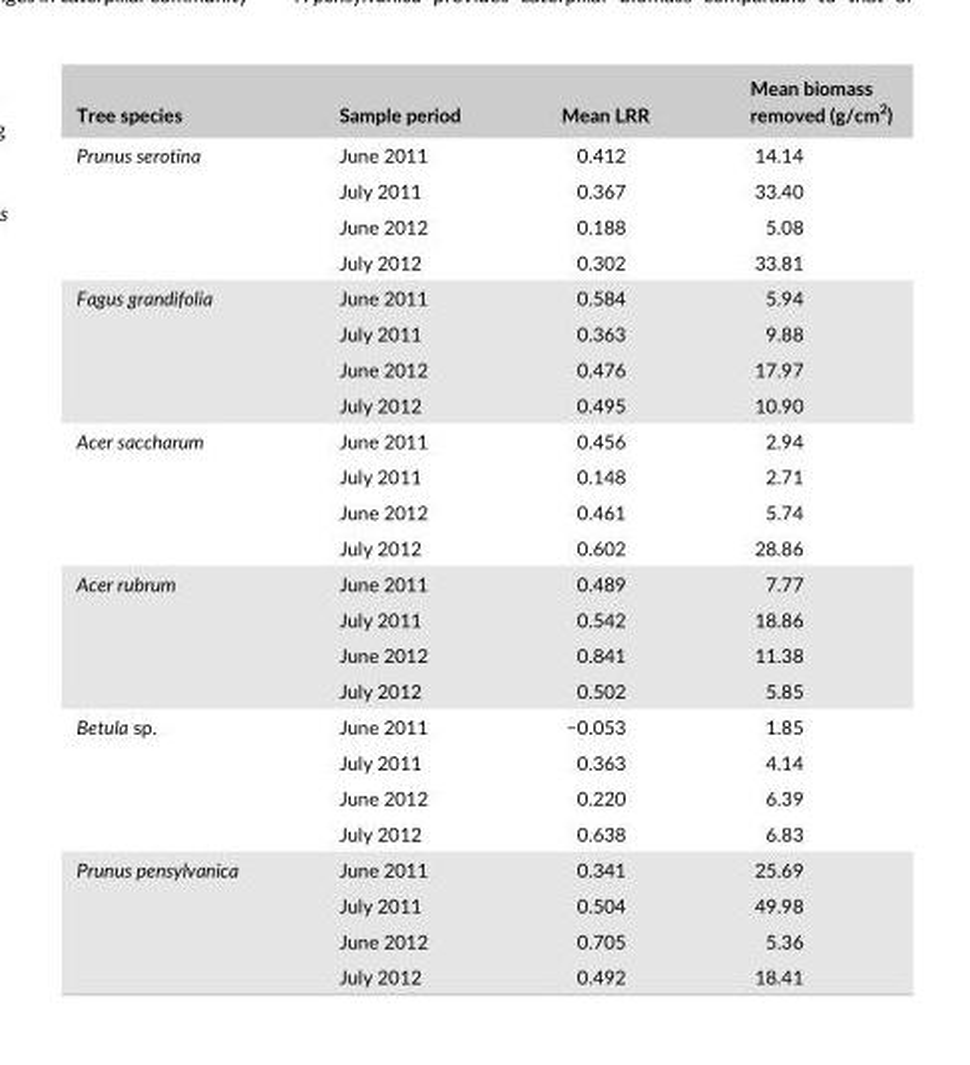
<table><thead><tr><td>Tree species</td><td>Sample period</td><td>Mean LRR</td><td>Mean biomass removed (g/cm<sup>2</sup>)</td></tr></thead><tbody><tr><td rowspan="4">Prunus serotina</td><td>June 2011</td><td>0.412</td><td>14.14</td></tr><tr><td>July 2011</td><td>0.367</td><td>33.40</td></tr><tr><td>June 2012</td><td>0.188</td><td>5.08</td></tr><tr><td>July 2012</td><td>0.302</td><td>33.81</td></tr><tr><td rowspan="4">Fagus grandifolia</td><td>June 2011</td><td>0.584</td><td>5.94</td></tr><tr><td>July 2011</td><td>0.363</td><td>9.88</td></tr><tr><td>June 2012</td><td>0.476</td><td>17.97</td></tr><tr><td>July 2012</td><td>0.495</td><td>10.90</td></tr><tr><td rowspan="4">Acer saccharum</td><td>June 2011</td><td>0.456</td><td>2.94</td></tr><tr><td>July 2011</td><td>0.148</td><td>2.71</td></tr><tr><td>June 2012</td><td>0.461</td><td>5.74</td></tr><tr><td>July 2012</td><td>0.602</td><td>28.86</td></tr><tr><td rowspan="4">Acer rubrum</td><td>June 2011</td><td>0.489</td><td>7.77</td></tr><tr><td>July 2011</td><td>0.542</td><td>18.86</td></tr><tr><td>June 2012</td><td>0.841</td><td>11.38</td></tr><tr><td>July 2012</td><td>0.502</td><td>5.85</td></tr><tr><td rowspan="4">Betula sp.</td><td>June 2011</td><td>−0.053</td><td>1.85</td></tr><tr><td>July 2011</td><td>0.363</td><td>4.14</td></tr><tr><td>June 2012</td><td>0.220</td><td>6.39</td></tr><tr><td>July 2012</td><td>0.638</td><td>6.83</td></tr><tr><td rowspan="4">Prunus pensylvanica</td><td>June 2011</td><td>0.341</td><td>25.69</td></tr><tr><td>July 2011</td><td>0.504</td><td>49.98</td></tr><tr><td>June 2012</td><td>0.705</td><td>5.36</td></tr><tr><td>July 2012</td><td>0.492</td><td>18.41</td></tr></tbody></table>